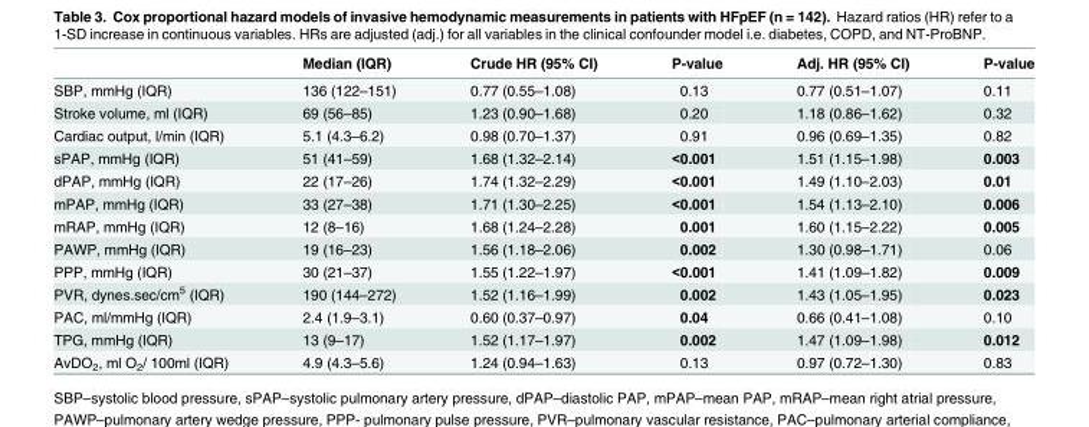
<table><thead><tr><td></td><td>Median (IQR)</td><td>Crude HR (95% CI)</td><td>P-value</td><td>Adj. HR (95% CI)</td><td>P-value</td></tr></thead><tbody><tr><td>SBP, mmHg (IQR)</td><td>136 (122–151)</td><td>0.77 (0.55–1.08)</td><td>0.13</td><td>0.77 (0.51–1.07)</td><td>0.11</td></tr><tr><td>Stroke volume, ml (IQR)</td><td>69 (56–85)</td><td>1.23 (0.90–1.68)</td><td>0.20</td><td>1.18 (0.86–1.62)</td><td>0.32</td></tr><tr><td>Cardiac output, l/min (IQR)</td><td>5.1 (4.3–6.2)</td><td>0.98 (0.70–1.37)</td><td>0.91</td><td>0.96 (0.69–1.35)</td><td>0.82</td></tr><tr><td>sPAP, mmHg (IQR)</td><td>51 (41–59)</td><td>1.68 (1.32–2.14)</td><td>&lt;0.001</td><td>1.51 (1.15–1.98)</td><td>0.003</td></tr><tr><td>dPAP, mmHg (IQR)</td><td>22 (17–26)</td><td>1.74 (1.32–2.29)</td><td>&lt;0.001</td><td>1.49 (1.10–2.03)</td><td>0.01</td></tr><tr><td>mPAP, mmHg (IQR)</td><td>33 (27–38)</td><td>1.71 (1.30–2.25)</td><td>&lt;0.001</td><td>1.54 (1.13–2.10)</td><td>0.006</td></tr><tr><td>mRAP, mmHg (IQR)</td><td>12 (8–16)</td><td>1.68 (1.24–2.28)</td><td>0.001</td><td>1.60 (1.15–2.22)</td><td>0.005</td></tr><tr><td>PAWP, mmHg (IQR)</td><td>19 (16–23)</td><td>1.56 (1.18–2.06)</td><td>0.002</td><td>1.30 (0.98–1.71)</td><td>0.06</td></tr><tr><td>PPP, mmHg (IQR)</td><td>30 (21–37)</td><td>1.55 (1.22–1.97)</td><td>&lt;0.001</td><td>1.41 (1.09–1.82)</td><td>0.009</td></tr><tr><td>PVR, dynes.sec/cm<sup>5</sup> (IQR)</td><td>190 (144–272)</td><td>1.52 (1.16–1.99)</td><td>0.002</td><td>1.43 (1.05–1.95)</td><td>0.023</td></tr><tr><td>PAC, ml/mmHg (IQR)</td><td>2.4 (1.9–3.1)</td><td>0.60 (0.37–0.97)</td><td>0.04</td><td>0.66 (0.41–1.08)</td><td>0.10</td></tr><tr><td>TPG, mmHg (IQR)</td><td>13 (9–17)</td><td>1.52 (1.17–1.97)</td><td>0.002</td><td>1.47 (1.09–1.98)</td><td>0.012</td></tr><tr><td>AvDO<sub>2</sub>, ml O<sub>2</sub>/ 100ml (IQR)</td><td>4.9 (4.3–5.6)</td><td>1.24 (0.94–1.63)</td><td>0.13</td><td>0.97 (0.72–1.30)</td><td>0.83</td></tr></tbody></table>